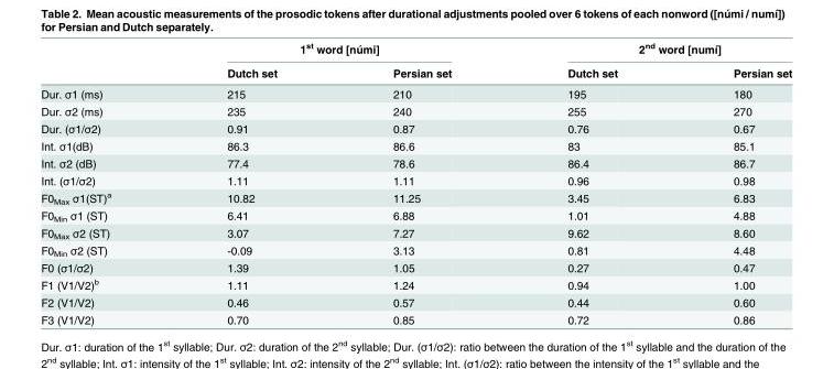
<table><thead><tr><td rowspan="2"></td><td colspan="2">1<sup>st</sup> word [númi]</td><td colspan="2">2<sup>nd</sup> word [numí]</td></tr><tr><td>Dutch set</td><td>Persian set</td><td>Dutch set</td><td>Persian set</td></tr></thead><tbody><tr><td>Dur. σ1 (ms)</td><td>215</td><td>210</td><td>195</td><td>180</td></tr><tr><td>Dur. σ2 (ms)</td><td>235</td><td>240</td><td>255</td><td>270</td></tr><tr><td>Dur. (σ1/σ2)</td><td>0.91</td><td>0.87</td><td>0.76</td><td>0.67</td></tr><tr><td>Int. σ1(dB)</td><td>86.3</td><td>86.6</td><td>83</td><td>85.1</td></tr><tr><td>Int. σ2 (dB)</td><td>77.4</td><td>78.6</td><td>86.4</td><td>86.7</td></tr><tr><td>Int. (σ1/σ2)</td><td>1.11</td><td>1.11</td><td>0.96</td><td>0.98</td></tr><tr><td>F0<sub>Max</sub> σ1(ST)<sup>a</sup></td><td>10.82</td><td>11.25</td><td>3.45</td><td>6.83</td></tr><tr><td>F0<sub>Min</sub> σ1 (ST)</td><td>6.41</td><td>6.88</td><td>1.01</td><td>4.88</td></tr><tr><td>F0<sub>Max</sub> σ2 (ST)</td><td>3.07</td><td>7.27</td><td>9.62</td><td>8.60</td></tr><tr><td>F0<sub>Min</sub> σ2 (ST)</td><td>-0.09</td><td>3.13</td><td>0.81</td><td>4.48</td></tr><tr><td>F0 (σ1/σ2)</td><td>1.39</td><td>1.05</td><td>0.27</td><td>0.47</td></tr><tr><td>F1 (V1/V2)<sup>b</sup></td><td>1.11</td><td>1.24</td><td>0.94</td><td>1.00</td></tr><tr><td>F2 (V1/V2)</td><td>0.46</td><td>0.57</td><td>0.44</td><td>0.60</td></tr><tr><td>F3 (V1/V2)</td><td>0.70</td><td>0.85</td><td>0.72</td><td>0.86</td></tr></tbody></table>